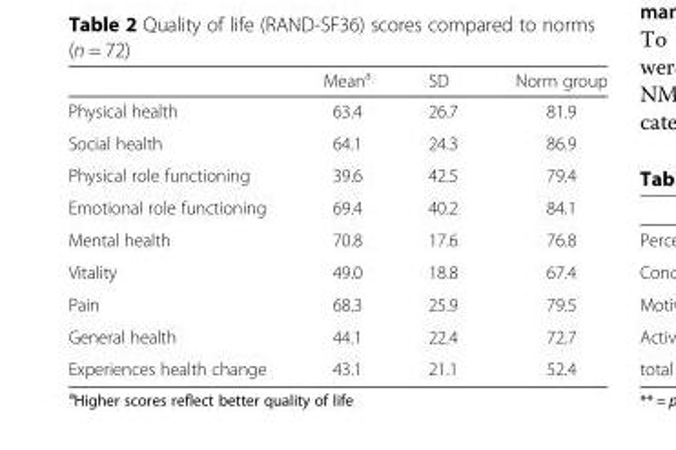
<table><thead><tr><td></td><td>Mean<sup>a</sup></td><td>SD</td><td>Norm group</td></tr></thead><tbody><tr><td>Physical health</td><td>63.4</td><td>26.7</td><td>81.9</td></tr><tr><td>Social health</td><td>64.1</td><td>24.3</td><td>86.9</td></tr><tr><td>Physical role functioning</td><td>39.6</td><td>42.5</td><td>79.4</td></tr><tr><td>Emotional role functioning</td><td>69.4</td><td>40.2</td><td>84.1</td></tr><tr><td>Mental health</td><td>70.8</td><td>17.6</td><td>76.8</td></tr><tr><td>Vitality</td><td>49.0</td><td>18.8</td><td>67.4</td></tr><tr><td>Pain</td><td>68.3</td><td>25.9</td><td>79.5</td></tr><tr><td>General health</td><td>44.1</td><td>22.4</td><td>72.7</td></tr><tr><td>Experiences health change</td><td>43.1</td><td>21.1</td><td>52.4</td></tr></tbody></table>